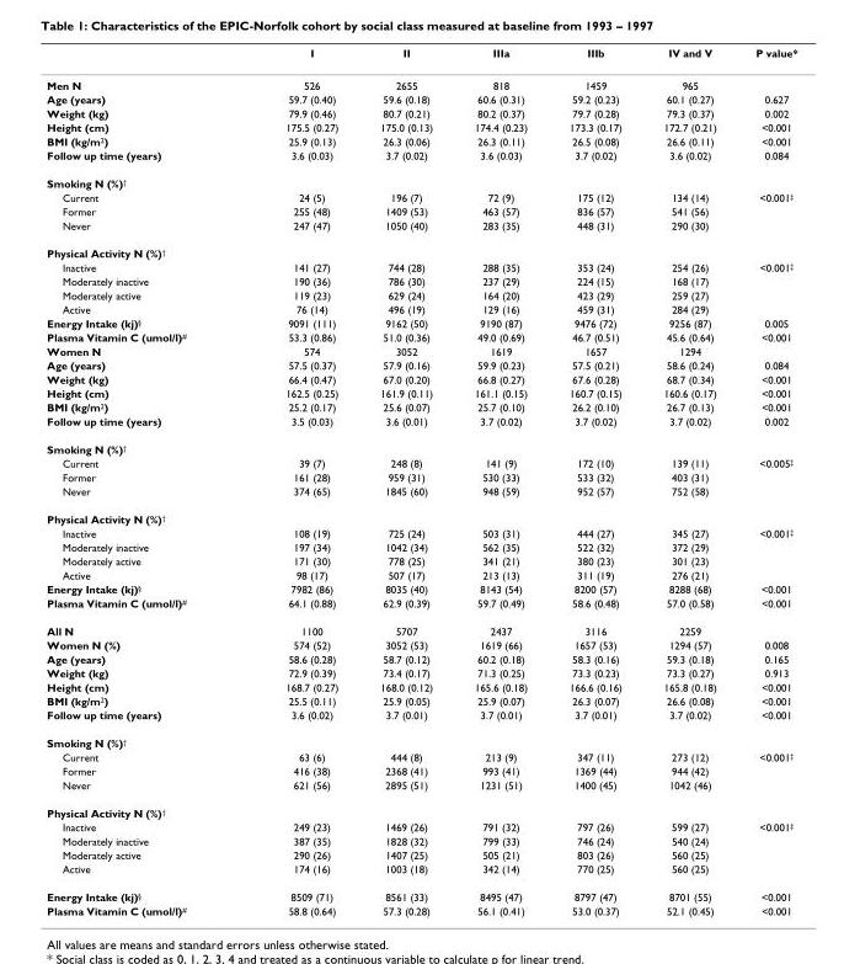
<table><thead><tr><td></td><td>I</td><td>II</td><td>IIIa</td><td>IIIb</td><td>IV and V</td><td>P value*</td></tr></thead><tbody><tr><td>Men N</td><td>526</td><td>2655</td><td>818</td><td>1459</td><td>965</td><td></td></tr><tr><td>Age (years)</td><td>59.7 (0.40)</td><td>59.6 (0.18)</td><td>60.6 (0.31)</td><td>59.2 (0.23)</td><td>60.1 (0.27)</td><td>0.627</td></tr><tr><td>Weight (kg)</td><td>79.9 (0.46)</td><td>80.7 (0.21)</td><td>80.2 (0.37)</td><td>79.7 (0.28)</td><td>79.3 (0.37)</td><td>0.002</td></tr><tr><td>Height (cm)</td><td>175.5 (0.27)</td><td>175.0 (0.13)</td><td>174.4 (0.23)</td><td>173.3 (0.17)</td><td>172.7 (0.21)</td><td>&lt;0.001</td></tr><tr><td>BMI (kg/m<sup>2</sup>)</td><td>25.9 (0.13)</td><td>26.3 (0.06)</td><td>26.3 (0.11)</td><td>26.5 (0.08)</td><td>26.6 (0.11)</td><td>&lt;0.001</td></tr><tr><td>Follow up time (years)</td><td>3.6 (0.03)</td><td>3.7 (0.02)</td><td>3.6 (0.03)</td><td>3.7 (0.02)</td><td>3.6 (0.02)</td><td>0.084</td></tr><tr><td colspan="7">Smoking N (%)<sup>†</sup></td></tr><tr><td>Current</td><td>24 (5)</td><td>196 (7)</td><td>72 (9)</td><td>175 (12)</td><td>134 (14)</td><td>&lt;0.001<sup>‡</sup></td></tr><tr><td>Former</td><td>255 (48)</td><td>1409 (53)</td><td>463 (57)</td><td>836 (57)</td><td>541 (56)</td><td></td></tr><tr><td>Never</td><td>247 (47)</td><td>1050 (40)</td><td>283 (35)</td><td>448 (31)</td><td>290 (30)</td><td></td></tr><tr><td colspan="7">Physical Activity N (%)<sup>†</sup></td></tr><tr><td>Inactive</td><td>141 (27)</td><td>744 (28)</td><td>288 (35)</td><td>353 (24)</td><td>254 (26)</td><td>&lt;0.001<sup>‡</sup></td></tr><tr><td>Moderately inactive</td><td>190 (36)</td><td>786 (30)</td><td>237 (29)</td><td>224 (15)</td><td>168 (17)</td><td></td></tr><tr><td>Moderately active</td><td>119 (23)</td><td>629 (24)</td><td>164 (20)</td><td>423 (29)</td><td>259 (27)</td><td></td></tr><tr><td>Active</td><td>76 (14)</td><td>496 (19)</td><td>129 (16)</td><td>459 (31)</td><td>284 (29)</td><td></td></tr><tr><td>Energy Intake (kj)<sup>§</sup></td><td>9091 (111)</td><td>9162 (50)</td><td>9190 (87)</td><td>9476 (72)</td><td>9256 (87)</td><td>0.005</td></tr><tr><td>Plasma Vitamin C (umol/l)<sup>#</sup></td><td>53.3 (0.86)</td><td>51.0 (0.36)</td><td>49.0 (0.69)</td><td>46.7 (0.51)</td><td>45.6 (0.64)</td><td>&lt;0.001</td></tr><tr><td>Women N</td><td>574</td><td>3052</td><td>1619</td><td>1657</td><td>1294</td><td></td></tr><tr><td>Age (years)</td><td>57.5 (0.37)</td><td>57.9 (0.16)</td><td>59.9 (0.23)</td><td>57.5 (0.21)</td><td>58.6 (0.24)</td><td>0.084</td></tr><tr><td>Weight (kg)</td><td>66.4 (0.47)</td><td>67.0 (0.20)</td><td>66.8 (0.27)</td><td>67.6 (0.28)</td><td>68.7 (0.34)</td><td>&lt;0.001</td></tr><tr><td>Height (cm)</td><td>162.5 (0.25)</td><td>161.9 (0.11)</td><td>161.1 (0.15)</td><td>160.7 (0.15)</td><td>160.6 (0.17)</td><td>&lt;0.001</td></tr><tr><td>BMI (kg/m<sup>2</sup>)</td><td>25.2 (0.17)</td><td>25.6 (0.07)</td><td>25.7 (0.10)</td><td>26.2 (0.10)</td><td>26.7 (0.13)</td><td>&lt;0.001</td></tr><tr><td>Follow up time (years)</td><td>3.5 (0.03)</td><td>3.6 (0.01)</td><td>3.7 (0.02)</td><td>3.7 (0.02)</td><td>3.7 (0.02)</td><td>0.002</td></tr><tr><td colspan="7">Smoking N (%)<sup>†</sup></td></tr><tr><td>Current</td><td>39 (7)</td><td>248 (8)</td><td>141 (9)</td><td>172 (10)</td><td>139 (11)</td><td>&lt;0.005<sup>‡</sup></td></tr><tr><td>Former</td><td>161 (28)</td><td>959 (31)</td><td>530 (33)</td><td>533 (32)</td><td>403 (31)</td><td></td></tr><tr><td>Never</td><td>374 (65)</td><td>1845 (60)</td><td>948 (59)</td><td>952 (57)</td><td>752 (58)</td><td></td></tr><tr><td colspan="7">Physical Activity N (%)<sup>†</sup></td></tr><tr><td>Inactive</td><td>108 (19)</td><td>725 (24)</td><td>503 (31)</td><td>444 (27)</td><td>345 (27)</td><td>&lt;0.001<sup>‡</sup></td></tr><tr><td>Moderately inactive</td><td>197 (34)</td><td>1042 (34)</td><td>562 (35)</td><td>522 (32)</td><td>372 (29)</td><td></td></tr><tr><td>Moderately active</td><td>171 (30)</td><td>778 (25)</td><td>341 (21)</td><td>380 (23)</td><td>301 (23)</td><td></td></tr><tr><td>Active</td><td>98 (17)</td><td>507 (17)</td><td>213 (13)</td><td>311 (19)</td><td>276 (21)</td><td></td></tr><tr><td>Energy Intake (kj)<sup>§</sup></td><td>7982 (86)</td><td>8035 (40)</td><td>8143 (54)</td><td>8200 (57)</td><td>8288 (68)</td><td>&lt;0.001</td></tr><tr><td>Plasma Vitamin C (umol/l)<sup>#</sup></td><td>64.1 (0.88)</td><td>62.9 (0.39)</td><td>59.7 (0.49)</td><td>58.6 (0.48)</td><td>57.0 (0.58)</td><td>&lt;0.001</td></tr><tr><td>All N</td><td>1100</td><td>5707</td><td>2437</td><td>3116</td><td>2259</td><td></td></tr><tr><td>Women N (%)</td><td>574 (52)</td><td>3052 (53)</td><td>1619 (66)</td><td>1657 (53)</td><td>1294 (57)</td><td>0.008</td></tr><tr><td>Age (years)</td><td>58.6 (0.28)</td><td>58.7 (0.12)</td><td>60.2 (0.18)</td><td>58.3 (0.16)</td><td>59.3 (0.18)</td><td>0.165</td></tr><tr><td>Weight (kg)</td><td>72.9 (0.39)</td><td>73.4 (0.17)</td><td>71.3 (0.25)</td><td>73.3 (0.23)</td><td>73.3 (0.27)</td><td>0.913</td></tr><tr><td>Height (cm)</td><td>168.7 (0.27)</td><td>168.0 (0.12)</td><td>165.6 (0.18)</td><td>166.6 (0.16)</td><td>165.8 (0.18)</td><td>&lt;0.001</td></tr><tr><td>BMI (kg/m<sup>2</sup>)</td><td>25.5 (0.11)</td><td>25.9 (0.05)</td><td>25.9 (0.07)</td><td>26.3 (0.07)</td><td>26.6 (0.08)</td><td>&lt;0.001</td></tr><tr><td>Follow up time (years)</td><td>3.6 (0.02)</td><td>3.7 (0.01)</td><td>3.7 (0.01)</td><td>3.7 (0.01)</td><td>3.7 (0.02)</td><td>&lt;0.001</td></tr><tr><td colspan="7">Smoking N (%)<sup>†</sup></td></tr><tr><td>Current</td><td>63 (6)</td><td>444 (8)</td><td>213 (9)</td><td>347 (11)</td><td>273 (12)</td><td>&lt;0.001<sup>‡</sup></td></tr><tr><td>Former</td><td>416 (38)</td><td>2368 (41)</td><td>993 (41)</td><td>1369 (44)</td><td>944 (42)</td><td></td></tr><tr><td>Never</td><td>621 (56)</td><td>2895 (51)</td><td>1231 (51)</td><td>1400 (45)</td><td>1042 (46)</td><td></td></tr><tr><td colspan="7">Physical Activity N (%)<sup>†</sup></td></tr><tr><td>Inactive</td><td>249 (23)</td><td>1469 (26)</td><td>791 (32)</td><td>797 (26)</td><td>599 (27)</td><td>&lt;0.001<sup>‡</sup></td></tr><tr><td>Moderately inactive</td><td>387 (35)</td><td>1828 (32)</td><td>799 (33)</td><td>746 (24)</td><td>540 (24)</td><td></td></tr><tr><td>Moderately active</td><td>290 (26)</td><td>1407 (25)</td><td>505 (21)</td><td>803 (26)</td><td>560 (25)</td><td></td></tr><tr><td>Active</td><td>174 (16)</td><td>1003 (18)</td><td>342 (14)</td><td>770 (25)</td><td>560 (25)</td><td></td></tr><tr><td>Energy Intake (kj)<sup>§</sup></td><td>8509 (71)</td><td>8561 (33)</td><td>8495 (47)</td><td>8797 (47)</td><td>8701 (55)</td><td>&lt;0.001</td></tr><tr><td>Plasma Vitamin C (umol/l)<sup>#</sup></td><td>58.8 (0.64)</td><td>57.3 (0.28)</td><td>56.1 (0.41)</td><td>53.0 (0.37)</td><td>52.1 (0.45)</td><td>&lt;0.001</td></tr></tbody></table>